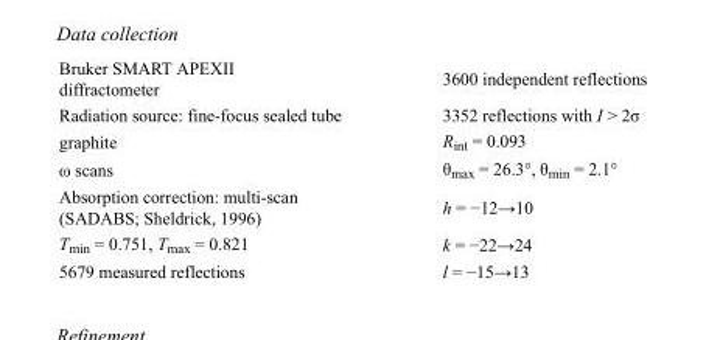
<table><tbody><tr><td>Bruker SMART APEXII diffractometer</td><td>3600 independent reflections</td></tr><tr><td>Radiation source: fine-focus sealed tube</td><td>3352 reflections with I &gt; 2σ</td></tr><tr><td>graphite</td><td>R<sub>int</sub> = 0.093</td></tr><tr><td>ω scans</td><td>θ<sub>max</sub> = 26.3°, θ<sub>min</sub> = 2.1°</td></tr><tr><td>Absorption correction: multi-scan (SADABS; Sheldrick, 1996)</td><td>h = −12→10</td></tr><tr><td>T<sub>min</sub> = 0.751, T<sub>max</sub> = 0.821</td><td>k = −22→24</td></tr><tr><td>5679 measured reflections</td><td>l = −15→13</td></tr></tbody></table>